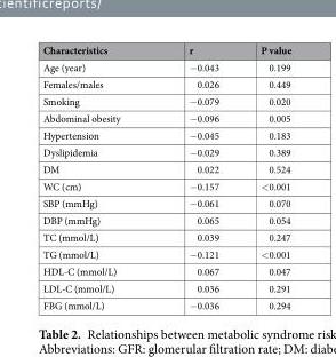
<table><thead><tr><td>Characteristics</td><td>r</td><td>P value</td></tr></thead><tbody><tr><td>Age (year)</td><td>−0.043</td><td>0.199</td></tr><tr><td>Females/males</td><td>0.026</td><td>0.449</td></tr><tr><td>Smoking</td><td>−0.079</td><td>0.020</td></tr><tr><td>Abdominal obesity</td><td>−0.096</td><td>0.005</td></tr><tr><td>Hypertension</td><td>−0.045</td><td>0.183</td></tr><tr><td>Dyslipidemia</td><td>−0.029</td><td>0.389</td></tr><tr><td>DM</td><td>0.022</td><td>0.524</td></tr><tr><td>WC (cm)</td><td>−0.157</td><td>&lt;0.001</td></tr><tr><td>SBP (mmHg)</td><td>−0.061</td><td>0.070</td></tr><tr><td>DBP (mmHg)</td><td>0.065</td><td>0.054</td></tr><tr><td>TC (mmol/L)</td><td>0.039</td><td>0.247</td></tr><tr><td>TG (mmol/L)</td><td>−0.121</td><td>&lt;0.001</td></tr><tr><td>HDL-C (mmol/L)</td><td>0.067</td><td>0.047</td></tr><tr><td>LDL-C (mmol/L)</td><td>0.036</td><td>0.291</td></tr><tr><td>FBG (mmol/L)</td><td>−0.036</td><td>0.294</td></tr></tbody></table>